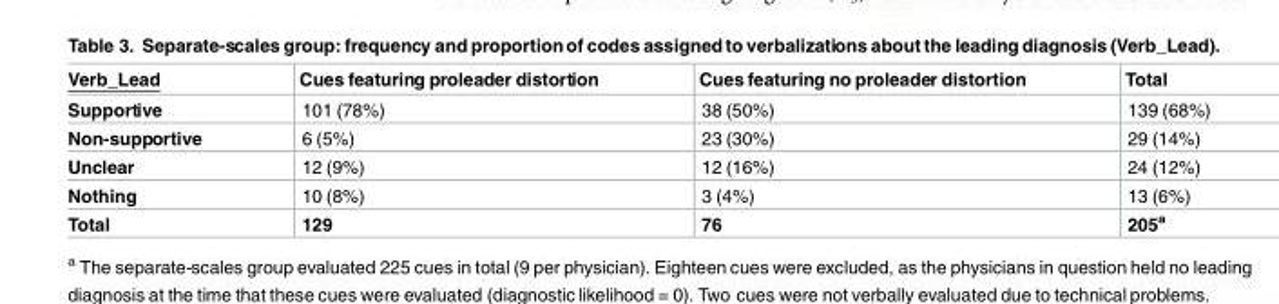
<table><thead><tr><td>Verb_Lead</td><td>Cues featuring proleader distortion</td><td>Cues featuring no proleader distortion</td><td>Total</td></tr></thead><tbody><tr><td>Supportive</td><td>101 (78%)</td><td>38 (50%)</td><td>139 (68%)</td></tr><tr><td>Non-supportive</td><td>6 (5%)</td><td>23 (30%)</td><td>29 (14%)</td></tr><tr><td>Unclear</td><td>12 (9%)</td><td>12 (16%)</td><td>24 (12%)</td></tr><tr><td>Nothing</td><td>10 (8%)</td><td>3 (4%)</td><td>13 (6%)</td></tr><tr><td>Total</td><td>129</td><td>76</td><td>205<sup>a</sup></td></tr></tbody></table>